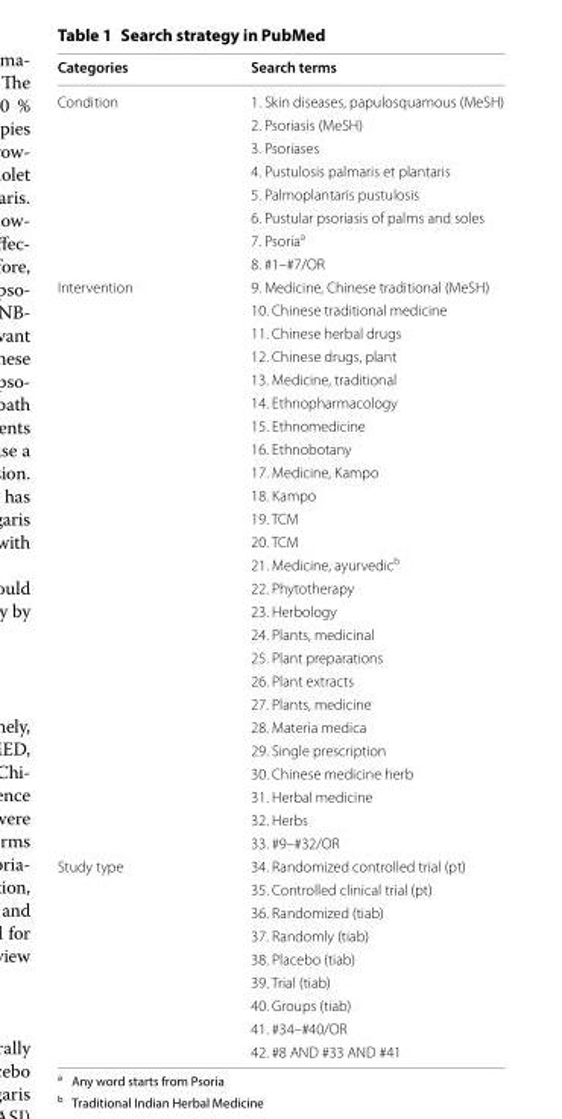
<table><thead><tr><td>Categories</td><td>Search terms</td></tr></thead><tbody><tr><td rowspan="8">Condition</td><td>1. Skin diseases, papulosquamous (MeSH)</td></tr><tr><td>2. Psoriasis (MeSH)</td></tr><tr><td>3. Psoriases</td></tr><tr><td>4. Pustulosis palmaris et plantaris</td></tr><tr><td>5. Palmoplantaris pustulosis</td></tr><tr><td>6. Pustular psoriasis of palms and soles</td></tr><tr><td>7. Psoria<sup>a</sup></td></tr><tr><td>8. #1–#7/OR</td></tr><tr><td rowspan="25">Intervention</td><td>9. Medicine, Chinese traditional (MeSH)</td></tr><tr><td>10. Chinese traditional medicine</td></tr><tr><td>11. Chinese herbal drugs</td></tr><tr><td>12. Chinese drugs, plant</td></tr><tr><td>13. Medicine, traditional</td></tr><tr><td>14. Ethnopharmacology</td></tr><tr><td>15. Ethnomedicine</td></tr><tr><td>16. Ethnobotany</td></tr><tr><td>17. Medicine, Kampo</td></tr><tr><td>18. Kampo</td></tr><tr><td>19. TCM</td></tr><tr><td>20. TCM</td></tr><tr><td>21. Medicine, ayurvedic<sup>b</sup></td></tr><tr><td>22. Phytotherapy</td></tr><tr><td>23. Herbology</td></tr><tr><td>24. Plants, medicinal</td></tr><tr><td>25. Plant preparations</td></tr><tr><td>26. Plant extracts</td></tr><tr><td>27. Plants, medicine</td></tr><tr><td>28. Materia medica</td></tr><tr><td>29. Single prescription</td></tr><tr><td>30. Chinese medicine herb</td></tr><tr><td>31. Herbal medicine</td></tr><tr><td>32. Herbs</td></tr><tr><td>33. #9–#32/OR</td></tr><tr><td rowspan="9">Study type</td><td>34. Randomized controlled trial (pt)</td></tr><tr><td>35. Controlled clinical trial (pt)</td></tr><tr><td>36. Randomized (tiab)</td></tr><tr><td>37. Randomly (tiab)</td></tr><tr><td>38. Placebo (tiab)</td></tr><tr><td>39. Trial (tiab)</td></tr><tr><td>40. Groups (tiab)</td></tr><tr><td>41. #34–#40/OR</td></tr><tr><td>42. #8 AND #33 AND #41</td></tr></tbody></table>